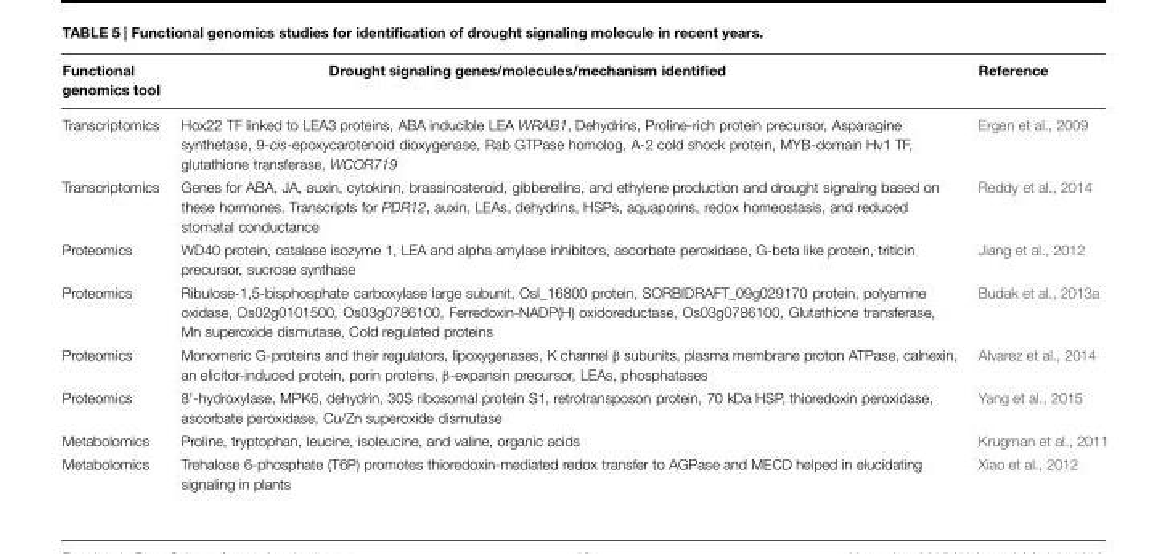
<table><thead><tr><td>Functional genomics tool</td><td>Drought signaling genes/molecules/mechanism identified</td><td>Reference</td></tr></thead><tbody><tr><td>Transcriptomics</td><td>Hox22 TF linked to LEA3 proteins, ABA inducible LEA WRAB1, Dehydrins, Proline-rich protein precursor, Asparagine synthetase, 9-cis-epoxycarotenoid dioxygenase, Rab GTPase homolog, A-2 cold shock protein, MYB-domain Hv1 TF, glutathione transferase, WCOR719</td><td>Ergen et al., 2009</td></tr><tr><td>Transcriptomics</td><td>Genes for ABA, JA, auxin, cytokinin, brassinosteroid, gibberellins, and ethylene production and drought signaling based on these hormones. Transcripts for PDR12, auxin, LEAs, dehydrins, HSPs, aquaporins, redox homeostasis, and reduced stomatal conductance</td><td>Reddy et al., 2014</td></tr><tr><td>Proteomics</td><td>WD40 protein, catalase isozyme 1, LEA and alpha amylase inhibitors, ascorbate peroxidase, G-beta like protein, triticin precursor, sucrose synthase</td><td>Jiang et al., 2012</td></tr><tr><td>Proteomics</td><td>Ribulose-1,5-bisphosphate carboxylase large subunit, OsI_16800 protein, SORBIDRAFT_09g029170 protein, polyamine oxidase, Os02g0101500, Os03g0786100, Ferredoxin-NADP(H) oxidoreductase, Os03g0786100, Glutathione transferase, Mn superoxide dismutase, Cold regulated proteins</td><td>Budak et al., 2013a</td></tr><tr><td>Proteomics</td><td>Monomeric G-proteins and their regulators, lipoxygenases, K channel β subunits, plasma membrane proton ATPase, calnexin, an elicitor-induced protein, porin proteins, β-expansin precursor, LEAs, phosphatases</td><td>Alvarez et al., 2014</td></tr><tr><td>Proteomics</td><td>8′-hydroxylase, MPK6, dehydrin, 30S ribosomal protein S1, retrotransposon protein, 70 kDa HSP, thioredoxin peroxidase, ascorbate peroxidase, Cu/Zn superoxide dismutase</td><td>Yang et al., 2015</td></tr><tr><td>Metabolomics</td><td>Proline, tryptophan, leucine, isoleucine, and valine, organic acids</td><td>Krugman et al., 2011</td></tr><tr><td>Metabolomics</td><td>Trehalose 6-phosphate (T6P) promotes thioredoxin-mediated redox transfer to AGPase and MECD helped in elucidating signaling in plants</td><td>Xiao et al., 2012</td></tr></tbody></table>